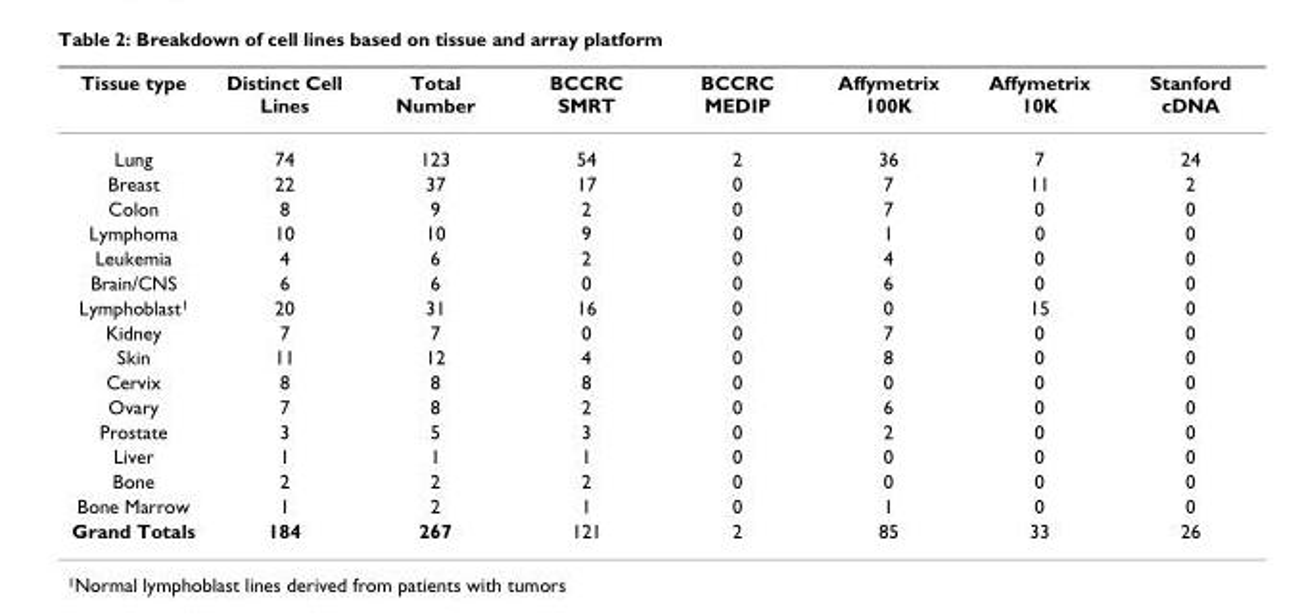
<table><thead><tr><td>Tissue type</td><td>Distinct Cell Lines</td><td>Total Number</td><td>BCCRC SMRT</td><td>BCCRC MEDIP</td><td>Affymetrix 100K</td><td>Affymetrix 10K</td><td>Stanford cDNA</td></tr></thead><tbody><tr><td>Lung</td><td>74</td><td>123</td><td>54</td><td>2</td><td>36</td><td>7</td><td>24</td></tr><tr><td>Breast</td><td>22</td><td>37</td><td>17</td><td>0</td><td>7</td><td>11</td><td>2</td></tr><tr><td>Colon</td><td>8</td><td>9</td><td>2</td><td>0</td><td>7</td><td>0</td><td>0</td></tr><tr><td>Lymphoma</td><td>10</td><td>10</td><td>9</td><td>0</td><td>1</td><td>0</td><td>0</td></tr><tr><td>Leukemia</td><td>4</td><td>6</td><td>2</td><td>0</td><td>4</td><td>0</td><td>0</td></tr><tr><td>Brain/CNS</td><td>6</td><td>6</td><td>0</td><td>0</td><td>6</td><td>0</td><td>0</td></tr><tr><td>Lymphoblast1</td><td>20</td><td>31</td><td>16</td><td>0</td><td>0</td><td>15</td><td>0</td></tr><tr><td>Kidney</td><td>7</td><td>7</td><td>0</td><td>0</td><td>7</td><td>0</td><td>0</td></tr><tr><td>Skin</td><td>11</td><td>12</td><td>4</td><td>0</td><td>8</td><td>0</td><td>0</td></tr><tr><td>Cervix</td><td>8</td><td>8</td><td>8</td><td>0</td><td>0</td><td>0</td><td>0</td></tr><tr><td>Ovary</td><td>7</td><td>8</td><td>2</td><td>0</td><td>6</td><td>0</td><td>0</td></tr><tr><td>Prostate</td><td>3</td><td>5</td><td>3</td><td>0</td><td>2</td><td>0</td><td>0</td></tr><tr><td>Liver</td><td>1</td><td>1</td><td>1</td><td>0</td><td>0</td><td>0</td><td>0</td></tr><tr><td>Bone</td><td>2</td><td>2</td><td>2</td><td>0</td><td>0</td><td>0</td><td>0</td></tr><tr><td>Bone Marrow</td><td>1</td><td>2</td><td>1</td><td>0</td><td>1</td><td>0</td><td>0</td></tr><tr><td>Grand Totals</td><td>184</td><td>267</td><td>121</td><td>2</td><td>85</td><td>33</td><td>26</td></tr></tbody></table>